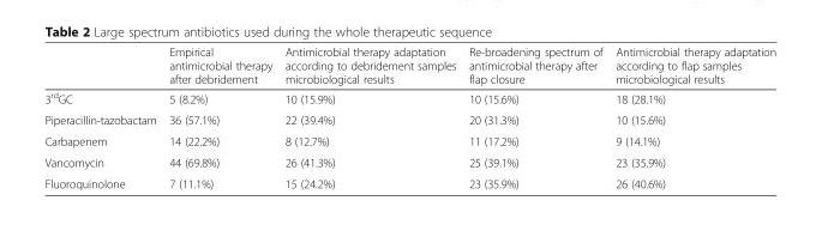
<table><thead><tr><td></td><td>Empirical antimicrobial therapy after debridement</td><td>Antimicrobial therapy adaptation according to debridement samples microbiological results</td><td>Re-broadening spectrum of antimicrobial therapy after flap closure</td><td>Antimicrobial therapy adaptation according to flap samples microbiological results</td></tr></thead><tbody><tr><td>3<sup>rd</sup>GC</td><td>5 (8.2%)</td><td>10 (15.9%)</td><td>10 (15.6%)</td><td>18 (28.1%)</td></tr><tr><td>Piperacillin-tazobactam</td><td>36 (57.1%)</td><td>22 (39.4%)</td><td>20 (31.3%)</td><td>10 (15.6%)</td></tr><tr><td>Carbapenem</td><td>14 (22.2%)</td><td>8 (12.7%)</td><td>11 (17.2%)</td><td>9 (14.1%)</td></tr><tr><td>Vancomycin</td><td>44 (69.8%)</td><td>26 (41.3%)</td><td>25 (39.1%)</td><td>23 (35.9%)</td></tr><tr><td>Fluoroquinolone</td><td>7 (11.1%)</td><td>15 (24.2%)</td><td>23 (35.9%)</td><td>26 (40.6%)</td></tr></tbody></table>